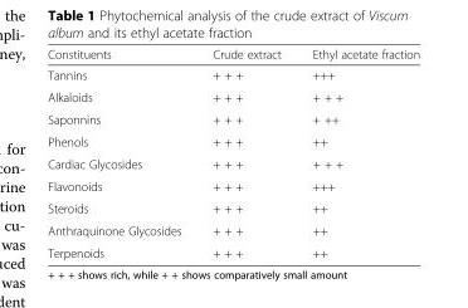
<table><thead><tr><td>Constituents</td><td>Crude extract</td><td>Ethyl acetate fraction</td></tr></thead><tbody><tr><td>Tannins</td><td>+ + +</td><td>+++</td></tr><tr><td>Alkaloids</td><td>+ + +</td><td>+ + +</td></tr><tr><td>Saponnins</td><td>+ + +</td><td>+ ++</td></tr><tr><td>Phenols</td><td>+ + +</td><td>++</td></tr><tr><td>Cardiac Glycosides</td><td>+ + +</td><td>+ + +</td></tr><tr><td>Flavonoids</td><td>+ + +</td><td>+++</td></tr><tr><td>Steroids</td><td>+ + +</td><td>++</td></tr><tr><td>Anthraquinone Glycosides</td><td>+ + +</td><td>++</td></tr><tr><td>Terpenoids</td><td>+ + +</td><td>++</td></tr></tbody></table>